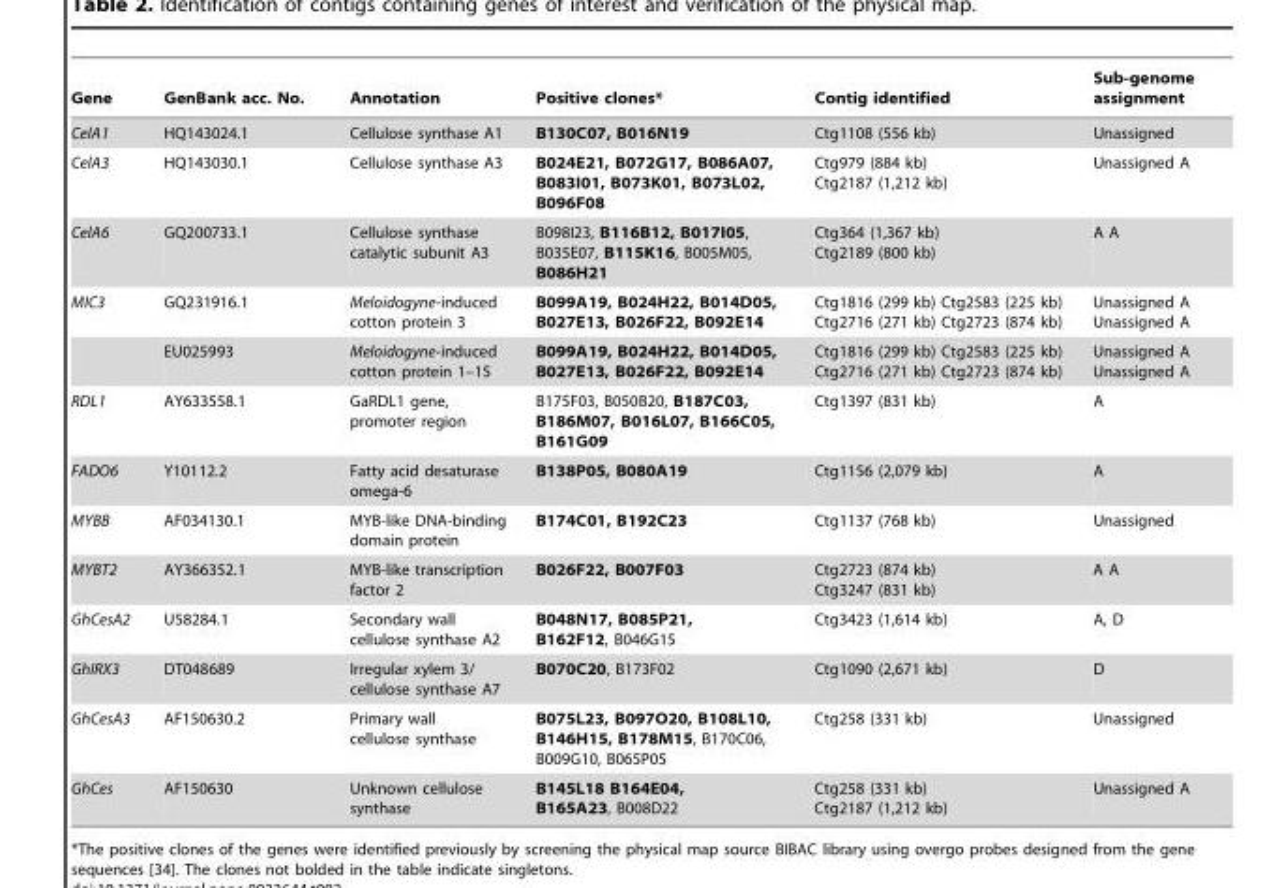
<table><thead><tr><td>Gene</td><td>GenBank acc. No.</td><td>Annotation</td><td>Positive clones*</td><td>Contig identified</td><td>Sub-genome assignment</td></tr></thead><tbody><tr><td>CelA1</td><td>HQ143024.1</td><td>Cellulose synthase A1</td><td>B130C07, B016N19</td><td>Ctg1108 (556 kb)</td><td>Unassigned</td></tr><tr><td>CelA3</td><td>HQ143030.1</td><td>Cellulose synthase A3</td><td>B024E21, B072G17, B086A07, B083I01, B073K01, B073L02, B096F08</td><td>Ctg979 (884 kb) Ctg2187 (1,212 kb)</td><td>Unassigned A</td></tr><tr><td>CelA6</td><td>GQ200733.1</td><td>Cellulose synthase catalytic subunit A3</td><td>B098I23, B116B12, B017I05, B035E07, B115K16, B005M05, B086H21</td><td>Ctg364 (1,367 kb) Ctg2189 (800 kb)</td><td>A A</td></tr><tr><td rowspan="2">MIC3</td><td>GQ231916.1</td><td>Meloidogyne-induced cotton protein 3</td><td>B099A19, B024H22, B014D05, B027E13, B026F22, B092E14</td><td>Ctg1816 (299 kb) Ctg2583 (225 kb) Ctg2716 (271 kb) Ctg2723 (874 kb)</td><td>Unassigned A Unassigned A</td></tr><tr><td>EU025993</td><td>Meloidogyne-induced cotton protein 1–15</td><td>B099A19, B024H22, B014D05, B027E13, B026F22, B092E14</td><td>Ctg1816 (299 kb) Ctg2583 (225 kb) Ctg2716 (271 kb) Ctg2723 (874 kb)</td><td>Unassigned A Unassigned A</td></tr><tr><td>RDL1</td><td>AY633558.1</td><td>GaRDL1 gene, promoter region</td><td>B175F03, B050B20, B187C03, B186M07, B016L07, B166C05, B161G09</td><td>Ctg1397 (831 kb)</td><td>A</td></tr><tr><td>FADO6</td><td>Y10112.2</td><td>Fatty acid desaturase omega-6</td><td>B138P05, B080A19</td><td>Ctg1156 (2,079 kb)</td><td>A</td></tr><tr><td>MYBB</td><td>AF034130.1</td><td>MYB-like DNA-binding domain protein</td><td>B174C01, B192C23</td><td>Ctg1137 (768 kb)</td><td>Unassigned</td></tr><tr><td>MYBT2</td><td>AY366352.1</td><td>MYB-like transcription factor 2</td><td>B026F22, B007F03</td><td>Ctg2723 (874 kb) Ctg3247 (831 kb)</td><td>A A</td></tr><tr><td>GhCesA2</td><td>U58284.1</td><td>Secondary wall cellulose synthase A2</td><td>B048N17, B085P21, B162F12, B046G15</td><td>Ctg3423 (1,614 kb)</td><td>A, D</td></tr><tr><td>GhIRX3</td><td>DT048689</td><td>Irregular xylem 3/ cellulose synthase A7</td><td>B070C20, B173F02</td><td>Ctg1090 (2,671 kb)</td><td>D</td></tr><tr><td>GhCesA3</td><td>AF150630.2</td><td>Primary wall cellulose synthase</td><td>B075L23, B097O20, B108L10, B146H15, B178M15, B170C06, B009G10, B065P05</td><td>Ctg258 (331 kb)</td><td>Unassigned</td></tr><tr><td>GhCes</td><td>AF150630</td><td>Unknown cellulose synthase</td><td>B145L18 B164E04, B165A23, B008D22</td><td>Ctg258 (331 kb) Ctg2187 (1,212 kb)</td><td>Unassigned A</td></tr></tbody></table>